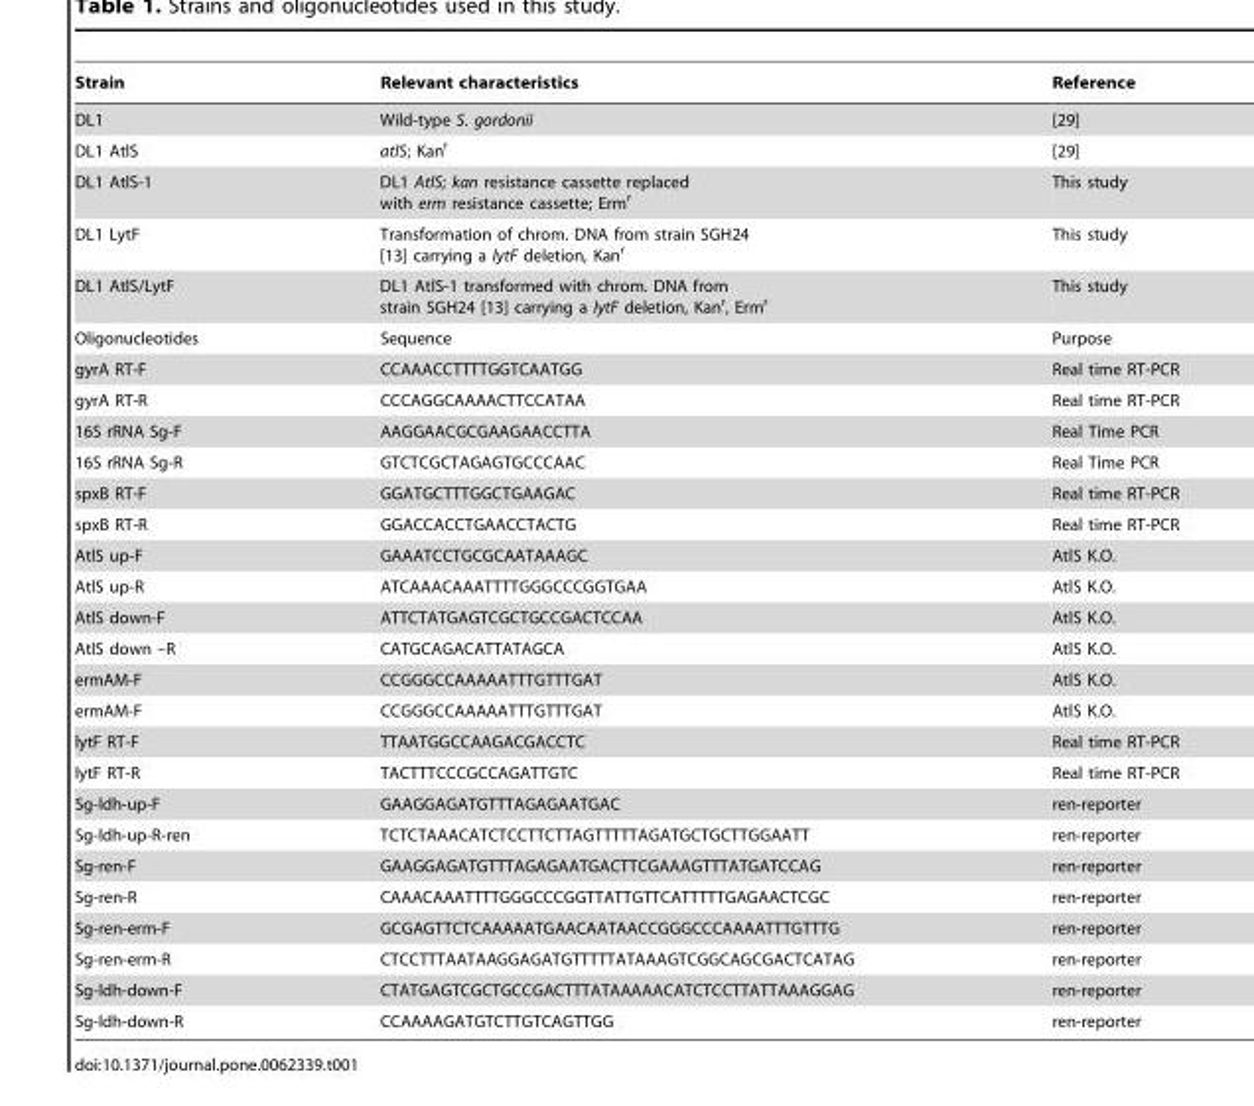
<table><thead><tr><td>Strain</td><td>Relevant characteristics</td><td>Reference</td></tr></thead><tbody><tr><td>DL1</td><td>Wild-type S. gordonii</td><td>[29]</td></tr><tr><td>DL1 AtlS</td><td>atlS; Kan<sup>r</sup></td><td>[29]</td></tr><tr><td>DL1 AtlS-1</td><td>DL1 AtlS; kan resistance cassette replaced with erm resistance cassette; Erm<sup>r</sup></td><td>This study</td></tr><tr><td>DL1 LytF</td><td>Transformation of chrom. DNA from strain SGH24 [13] carrying a lytF deletion, Kan<sup>r</sup></td><td>This study</td></tr><tr><td>DL1 AtlS/LytF</td><td>DL1 AtlS-1 transformed with chrom. DNA from strain SGH24 [13] carrying a lytF deletion, Kan<sup>r</sup>, Erm<sup>r</sup></td><td>This study</td></tr><tr><td>Oligonucleotides</td><td>Sequence</td><td>Purpose</td></tr><tr><td>gyrA RT-F</td><td>CCAAACCTTTTGGTCAATGG</td><td>Real time RT-PCR</td></tr><tr><td>gyrA RT-R</td><td>CCCAGGCAAAACTTCCATAA</td><td>Real time RT-PCR</td></tr><tr><td>16S rRNA Sg-F</td><td>AAGGAACGCGAAGAACCTTA</td><td>Real Time PCR</td></tr><tr><td>16S rRNA Sg-R</td><td>GTCTCGCTAGAGTGCCCAAC</td><td>Real Time PCR</td></tr><tr><td>spxB RT-F</td><td>GGATGCTTTGGCTGAAGAC</td><td>Real time RT-PCR</td></tr><tr><td>spxB RT-R</td><td>GGACCACCTGAACCTACTG</td><td>Real time RT-PCR</td></tr><tr><td>AtlS up-F</td><td>GAAATCCTGCGCAATAAAGC</td><td>AtlS K.O.</td></tr><tr><td>AtlS up-R</td><td>ATCAAACAAATTTTGGGCCCGGTGAA</td><td>AtlS K.O.</td></tr><tr><td>AtlS down-F</td><td>ATTCTATGAGTCGCTGCCGACTCCAA</td><td>AtlS K.O.</td></tr><tr><td>AtlS down –R</td><td>CATGCAGACATTATAGCA</td><td>AtlS K.O.</td></tr><tr><td>ermAM-F</td><td>CCGGGCCAAAAATTTGTTTGAT</td><td>AtlS K.O.</td></tr><tr><td>ermAM-F</td><td>CCGGGCCAAAAATTTGTTTGAT</td><td>AtlS K.O.</td></tr><tr><td>lytF RT-F</td><td>TTAATGGCCAAGACGACCTC</td><td>Real time RT-PCR</td></tr><tr><td>lytF RT-R</td><td>TACTTTCCCGCCAGATTGTC</td><td>Real time RT-PCR</td></tr><tr><td>Sg-ldh-up-F</td><td>GAAGGAGATGTTTAGAGAATGAC</td><td>ren-reporter</td></tr><tr><td>Sg-ldh-up-R-ren</td><td>TCTCTAAACATCTCCTTCTTAGTTTTTAGATGCTGCTTGGAATT</td><td>ren-reporter</td></tr><tr><td>Sg-ren-F</td><td>GAAGGAGATGTTTAGAGAATGACTTCGAAAGTTTATGATCCAG</td><td>ren-reporter</td></tr><tr><td>Sg-ren-R</td><td>CAAACAAATTTTGGGCCCGGTTATTGTTCATTTTTGAGAACTCGC</td><td>ren-reporter</td></tr><tr><td>Sg-ren-erm-F</td><td>GCGAGTTCTCAAAAATGAACAATAACCGGGCCCAAAATTTGTTTG</td><td>ren-reporter</td></tr><tr><td>Sg-ren-erm-R</td><td>CTCCTTTAATAAGGAGATGTTTTTATAAAGTCGGCAGCGACTCATAG</td><td>ren-reporter</td></tr><tr><td>Sg-ldh-down-F</td><td>CTATGAGTCGCTGCCGACTTTATAAAAACATCTCCTTATTAAAGGAG</td><td>ren-reporter</td></tr><tr><td>Sg-ldh-down-R</td><td>CCAAAAGATGTCTTGTCAGTTGG</td><td>ren-reporter</td></tr></tbody></table>